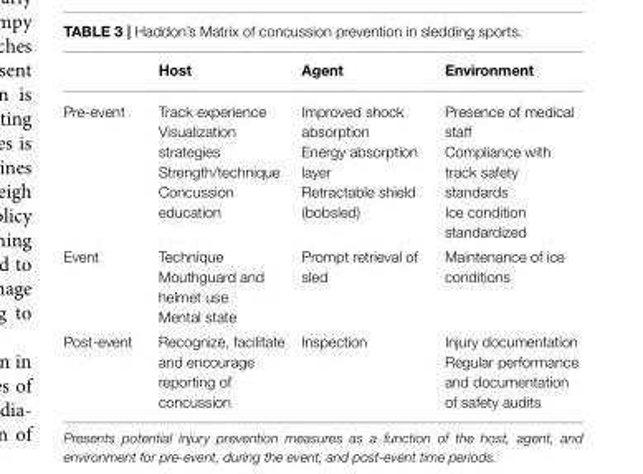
<table><thead><tr><td></td><td>Host</td><td>Agent</td><td>Environment</td></tr></thead><tbody><tr><td>Pre-event</td><td>Track experience Visualization strategies Strength/technique Concussion education</td><td>Improved shock absorption Energy absorption layer Retractable shield (bobsled)</td><td>Presence of medical staff Compliance with track safety standards Ice condition standardized</td></tr><tr><td>Event</td><td>Technique Mouthguard and helmet use Mental state</td><td>Prompt retrieval of sled</td><td>Maintenance of ice conditions</td></tr><tr><td>Post-event</td><td>Recognize, facilitate and encourage reporting of concussion</td><td>Inspection</td><td>Injury documentation Regular performance and documentation of safety audits</td></tr></tbody></table>